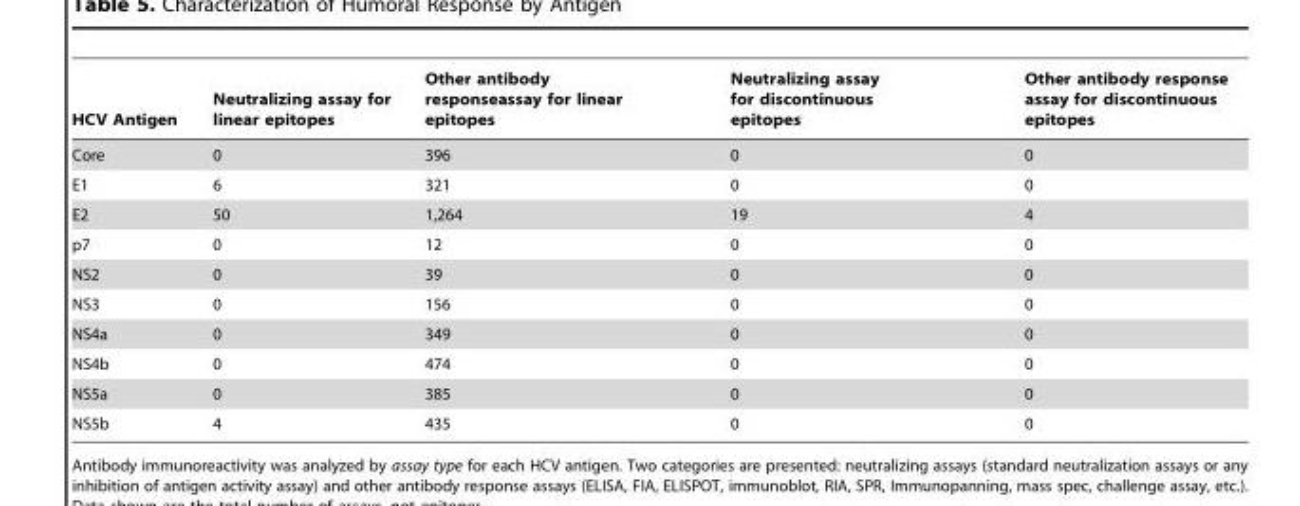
<table><thead><tr><td>HCV Antigen</td><td>Neutralizing assay for linear epitopes</td><td>Other antibody responseassay for linear epitopes</td><td>Neutralizing assay for discontinuous epitopes</td><td>Other antibody response assay for discontinuous epitopes</td></tr></thead><tbody><tr><td>Core</td><td>0</td><td>396</td><td>0</td><td>0</td></tr><tr><td>E1</td><td>6</td><td>321</td><td>0</td><td>0</td></tr><tr><td>E2</td><td>50</td><td>1,264</td><td>19</td><td>4</td></tr><tr><td>p7</td><td>0</td><td>12</td><td>0</td><td>0</td></tr><tr><td>NS2</td><td>0</td><td>39</td><td>0</td><td>0</td></tr><tr><td>NS3</td><td>0</td><td>156</td><td>0</td><td>0</td></tr><tr><td>NS4a</td><td>0</td><td>349</td><td>0</td><td>0</td></tr><tr><td>NS4b</td><td>0</td><td>474</td><td>0</td><td>0</td></tr><tr><td>NS5a</td><td>0</td><td>385</td><td>0</td><td>0</td></tr><tr><td>NS5b</td><td>4</td><td>435</td><td>0</td><td>0</td></tr></tbody></table>